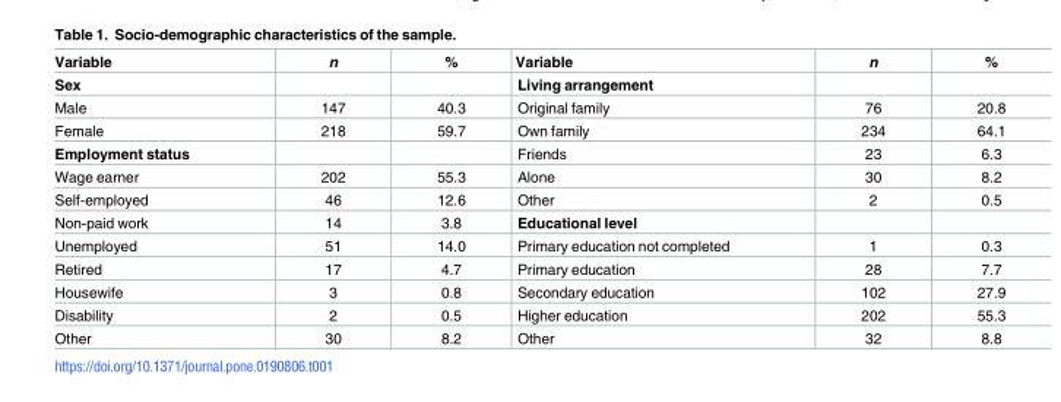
<table><thead><tr><td>Variable</td><td>n</td><td>%</td><td>Variable</td><td>n</td><td>%</td></tr></thead><tbody><tr><td>Sex</td><td></td><td></td><td>Living arrangement</td><td></td><td></td></tr><tr><td>Male</td><td>147</td><td>40.3</td><td>Original family</td><td>76</td><td>20.8</td></tr><tr><td>Female</td><td>218</td><td>59.7</td><td>Own family</td><td>234</td><td>64.1</td></tr><tr><td>Employment status</td><td></td><td></td><td>Friends</td><td>23</td><td>6.3</td></tr><tr><td>Wage earner</td><td>202</td><td>55.3</td><td>Alone</td><td>30</td><td>8.2</td></tr><tr><td>Self-employed</td><td>46</td><td>12.6</td><td>Other</td><td>2</td><td>0.5</td></tr><tr><td>Non-paid work</td><td>14</td><td>3.8</td><td>Educational level</td><td></td><td></td></tr><tr><td>Unemployed</td><td>51</td><td>14.0</td><td>Primary education not completed</td><td>1</td><td>0.3</td></tr><tr><td>Retired</td><td>17</td><td>4.7</td><td>Primary education</td><td>28</td><td>7.7</td></tr><tr><td>Housewife</td><td>3</td><td>0.8</td><td>Secondary education</td><td>102</td><td>27.9</td></tr><tr><td>Disability</td><td>2</td><td>0.5</td><td>Higher education</td><td>202</td><td>55.3</td></tr><tr><td>Other</td><td>30</td><td>8.2</td><td>Other</td><td>32</td><td>8.8</td></tr></tbody></table>